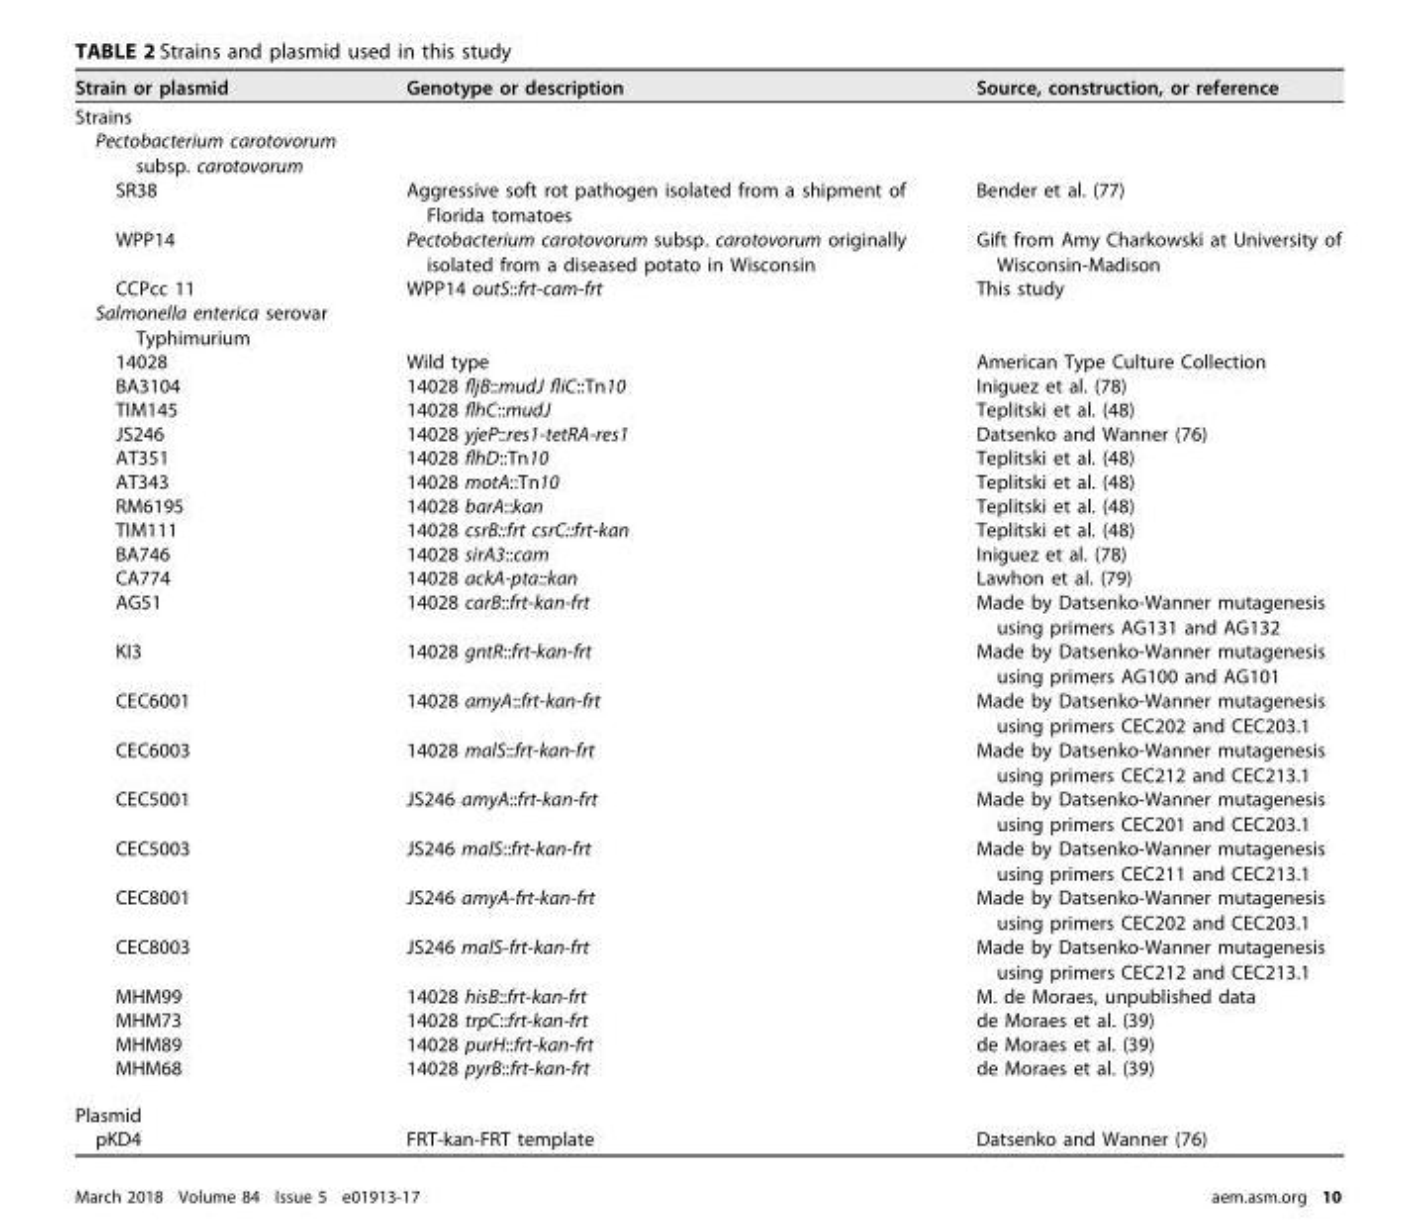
<table><thead><tr><td>Strain or plasmid</td><td>Genotype or description</td><td>Source, construction, or reference</td></tr></thead><tbody><tr><td colspan="3">Strains</td></tr><tr><td colspan="3">Pectobacterium carotovorum subsp. carotovorum</td></tr><tr><td>SR38</td><td>Aggressive soft rot pathogen isolated from a shipment of Florida tomatoes</td><td>Bender et al. (77)</td></tr><tr><td>WPP14</td><td>Pectobacterium carotovorum subsp. carotovorum originally isolated from a diseased potato in Wisconsin</td><td>Gift from Amy Charkowski at University of Wisconsin-Madison</td></tr><tr><td>CCPcc 11</td><td>WPP14 outS::frt-cam-frt</td><td>This study</td></tr><tr><td colspan="3">Salmonella enterica serovar Typhimurium</td></tr><tr><td>14028</td><td>Wild type</td><td>American Type Culture Collection</td></tr><tr><td>BA3104</td><td>14028 fljB::mudJ fliC::Tn10</td><td>Iniguez et al. (78)</td></tr><tr><td>TIM145</td><td>14028 flhC::mudJ</td><td>Teplitski et al. (48)</td></tr><tr><td>JS246</td><td>14028 yjeP::res1-tetRA-res1</td><td>Datsenko and Wanner (76)</td></tr><tr><td>AT351</td><td>14028 flhD::Tn10</td><td>Teplitski et al. (48)</td></tr><tr><td>AT343</td><td>14028 motA::Tn10</td><td>Teplitski et al. (48)</td></tr><tr><td>RM6195</td><td>14028 barA::kan</td><td>Teplitski et al. (48)</td></tr><tr><td>TIM111</td><td>14028 csrB::frt csrC::frt-kan</td><td>Teplitski et al. (48)</td></tr><tr><td>BA746</td><td>14028 sirA3::cam</td><td>Iniguez et al. (78)</td></tr><tr><td>CA774</td><td>14028 ackA-pta::kan</td><td>Lawhon et al. (79)</td></tr><tr><td>AG51</td><td>14028 carB::frt-kan-frt</td><td>Made by Datsenko-Wanner mutagenesis using primers AG131 and AG132</td></tr><tr><td>KI3</td><td>14028 gntR::frt-kan-frt</td><td>Made by Datsenko-Wanner mutagenesis using primers AG100 and AG101</td></tr><tr><td>CEC6001</td><td>14028 amyA::frt-kan-frt</td><td>Made by Datsenko-Wanner mutagenesis using primers CEC202 and CEC203.1</td></tr><tr><td>CEC6003</td><td>14028 malS::frt-kan-frt</td><td>Made by Datsenko-Wanner mutagenesis using primers CEC212 and CEC213.1</td></tr><tr><td>CEC5001</td><td>JS246 amyA::frt-kan-frt</td><td>Made by Datsenko-Wanner mutagenesis using primers CEC201 and CEC203.1</td></tr><tr><td>CEC5003</td><td>JS246 malS::frt-kan-frt</td><td>Made by Datsenko-Wanner mutagenesis using primers CEC211 and CEC213.1</td></tr><tr><td>CEC8001</td><td>JS246 amyA-frt-kan-frt</td><td>Made by Datsenko-Wanner mutagenesis using primers CEC202 and CEC203.1</td></tr><tr><td>CEC8003</td><td>JS246 malS-frt-kan-frt</td><td>Made by Datsenko-Wanner mutagenesis using primers CEC212 and CEC213.1</td></tr><tr><td>MHM99</td><td>14028 hisB::frt-kan-frt</td><td>M. de Moraes, unpublished data</td></tr><tr><td>MHM73</td><td>14028 trpC::frt-kan-frt</td><td>de Moraes et al. (39)</td></tr><tr><td>MHM89</td><td>14028 purH::frt-kan-frt</td><td>de Moraes et al. (39)</td></tr><tr><td>MHM68</td><td>14028 pyrB::frt-kan-frt</td><td>de Moraes et al. (39)</td></tr><tr><td colspan="3">Plasmid</td></tr><tr><td>pKD4</td><td>FRT-kan-FRT template</td><td>Datsenko and Wanner (76)</td></tr></tbody></table>